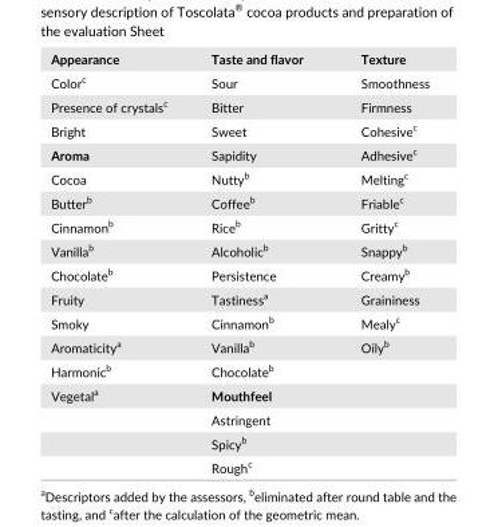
<table><tbody><tr><td>Appearance</td><td>Taste and flavor</td><td>Texture</td></tr><tr><td>Color<sup>c</sup></td><td>Sour</td><td>Smoothness</td></tr><tr><td>Presence of crystals<sup>c</sup></td><td>Bitter</td><td>Firmness</td></tr><tr><td>Bright</td><td>Sweet</td><td>Cohesive<sup>c</sup></td></tr><tr><td>Aroma</td><td>Sapidity</td><td>Adhesive<sup>c</sup></td></tr><tr><td>Cocoa</td><td>Nutty<sup>b</sup></td><td>Melting<sup>c</sup></td></tr><tr><td>Butter<sup>b</sup></td><td>Coffee<sup>b</sup></td><td>Friable<sup>c</sup></td></tr><tr><td>Cinnamon<sup>b</sup></td><td>Rice<sup>b</sup></td><td>Gritty<sup>c</sup></td></tr><tr><td>Vanilla<sup>b</sup></td><td>Alcoholic<sup>b</sup></td><td>Snappy<sup>b</sup></td></tr><tr><td>Chocolate<sup>b</sup></td><td>Persistence</td><td>Creamy<sup>b</sup></td></tr><tr><td>Fruity</td><td>Tastiness<sup>a</sup></td><td>Graininess</td></tr><tr><td>Smoky</td><td>Cinnamon<sup>b</sup></td><td>Mealy<sup>c</sup></td></tr><tr><td>Aromaticity<sup>a</sup></td><td>Vanilla<sup>b</sup></td><td>Oily<sup>b</sup></td></tr><tr><td>Harmonic<sup>b</sup></td><td>Chocolate<sup>b</sup></td><td></td></tr><tr><td rowspan="4">Vegetal<sup>a</sup></td><td>Mouthfeel</td><td></td></tr><tr><td>Astringent</td><td></td></tr><tr><td>Spicy<sup>b</sup></td><td></td></tr><tr><td>Rough<sup>c</sup></td><td></td></tr></tbody></table>